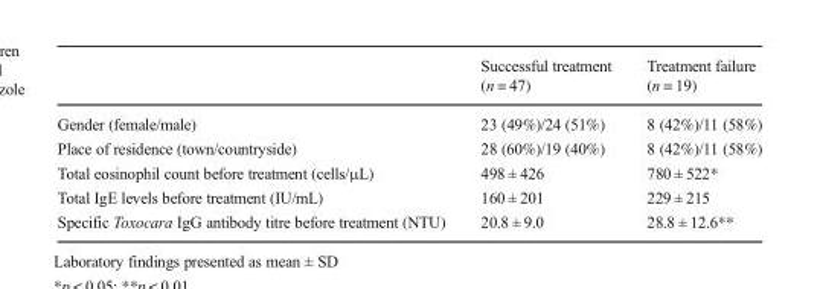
<table><thead><tr><td></td><td>Successful treatment (n = 47)</td><td>Treatment failure (n = 19)</td></tr></thead><tbody><tr><td>Gender (female/male)</td><td>23 (49%)/24 (51%)</td><td>8 (42%)/11 (58%)</td></tr><tr><td>Place of residence (town/countryside)</td><td>28 (60%)/19 (40%)</td><td>8 (42%)/11 (58%)</td></tr><tr><td>Total eosinophil count before treatment (cells/μL)</td><td>498 ± 426</td><td>780 ± 522*</td></tr><tr><td>Total IgE levels before treatment (IU/mL)</td><td>160 ± 201</td><td>229 ± 215</td></tr><tr><td>Specific Toxocara IgG antibody titre before treatment (NTU)</td><td>20.8 ± 9.0</td><td>28.8 ± 12.6**</td></tr></tbody></table>